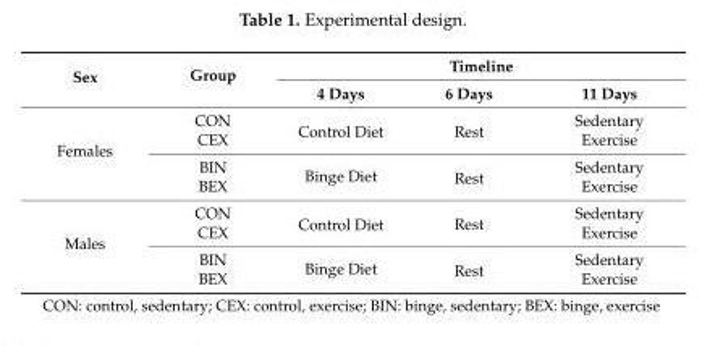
<table><thead><tr><td rowspan="2">Sex</td><td rowspan="2">Group</td><td colspan="3">Timeline</td></tr><tr><td>4 Days</td><td>6 Days</td><td>11 Days</td></tr></thead><tbody><tr><td rowspan="4">Females</td><td>CON</td><td rowspan="2">Control Diet</td><td rowspan="2">Rest</td><td>Sedentary</td></tr><tr><td>CEX</td><td>Exercise</td></tr><tr><td>BIN</td><td rowspan="2">Binge Diet</td><td rowspan="2">Rest</td><td>Sedentary</td></tr><tr><td>BEX</td><td>Exercise</td></tr><tr><td rowspan="4">Males</td><td>CON</td><td rowspan="2">Control Diet</td><td rowspan="2">Rest</td><td>Sedentary</td></tr><tr><td>CEX</td><td>Exercise</td></tr><tr><td>BIN</td><td rowspan="2">Binge Diet</td><td rowspan="2">Rest</td><td>Sedentary</td></tr><tr><td>BEX</td><td>Exercise</td></tr></tbody></table>